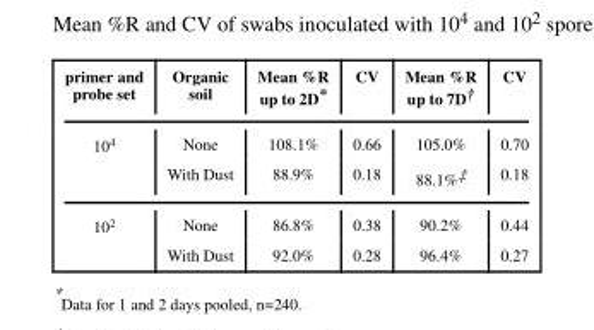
<table><thead><tr><td>primer and probe set</td><td>Organic soil</td><td>Mean %R up to 2D*</td><td>CV</td><td>Mean %R up to 7D†</td><td>CV</td></tr></thead><tbody><tr><td rowspan="2">10<sup>4</sup></td><td>None</td><td>108.1%</td><td>0.66</td><td>105.0%</td><td>0.70</td></tr><tr><td>With Dust</td><td>88.9%</td><td>0.18</td><td>88.1%‡</td><td>0.18</td></tr><tr><td rowspan="2">10<sup>2</sup></td><td>None</td><td>86.8%</td><td>0.38</td><td>90.2%</td><td>0.44</td></tr><tr><td>With Dust</td><td>92.0%</td><td>0.28</td><td>96.4%</td><td>0.27</td></tr></tbody></table>